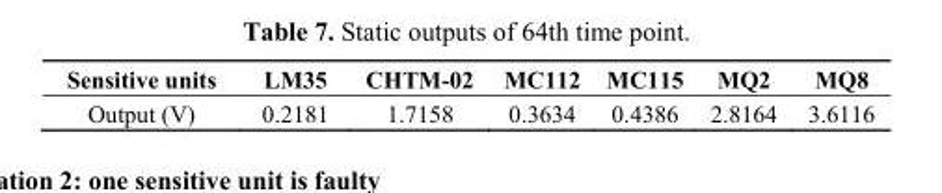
<table><thead><tr><td>Sensitive units</td><td>LM35</td><td>CHTM-02</td><td>MC112</td><td>MC115</td><td>MQ2</td><td>MQ8</td></tr></thead><tbody><tr><td>Output (V)</td><td>0.2181</td><td>1.7158</td><td>0.3634</td><td>0.4386</td><td>2.8164</td><td>3.6116</td></tr></tbody></table>